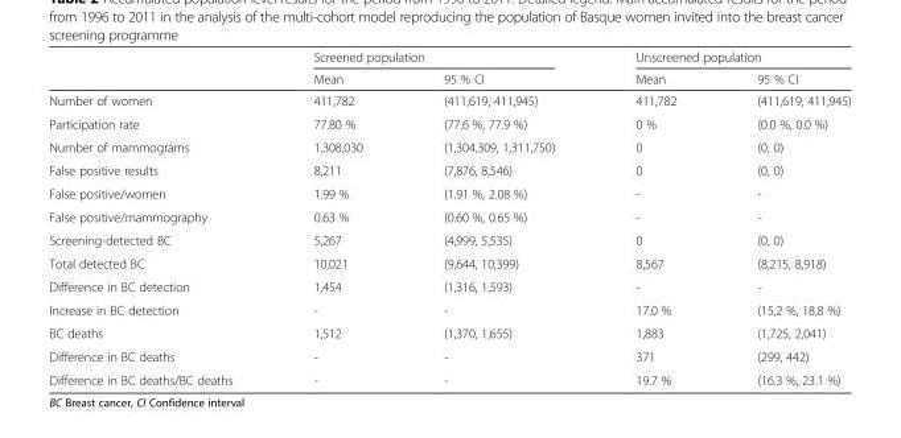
<table><thead><tr><td rowspan="2"></td><td colspan="2">Screened population</td><td colspan="2">Unscreened population</td></tr><tr><td>Mean</td><td>95 % CI</td><td>Mean</td><td>95 % CI</td></tr></thead><tbody><tr><td>Number of women</td><td>411,782</td><td>(411,619, 411,945)</td><td>411,782</td><td>(411,619, 411,945)</td></tr><tr><td>Participation rate</td><td>77.80 %</td><td>(77.6 %, 77.9 %)</td><td>0 %</td><td>(0.0 %, 0.0 %)</td></tr><tr><td>Number of mammograms</td><td>1,308,030</td><td>(1,304,309, 1,311,750)</td><td>0</td><td>(0, 0)</td></tr><tr><td>False positive results</td><td>8,211</td><td>(7,876, 8,546)</td><td>0</td><td>(0, 0)</td></tr><tr><td>False positive/women</td><td>1.99 %</td><td>(1.91 %, 2.08 %)</td><td>-</td><td>-</td></tr><tr><td>False positive/mammography</td><td>0.63 %</td><td>(0.60 %, 0.65 %)</td><td>-</td><td>-</td></tr><tr><td>Screening-detected BC</td><td>5,267</td><td>(4,999, 5,535)</td><td>0</td><td>(0, 0)</td></tr><tr><td>Total detected BC</td><td>10,021</td><td>(9,644, 10,399)</td><td>8,567</td><td>(8,215, 8,918)</td></tr><tr><td>Difference in BC detection</td><td>1,454</td><td>(1,316, 1,593)</td><td>-</td><td>-</td></tr><tr><td>Increase in BC detection</td><td>-</td><td>-</td><td>17.0 %</td><td>(15,2 %, 18,8 %)</td></tr><tr><td>BC deaths</td><td>1,512</td><td>(1,370, 1,655)</td><td>1,883</td><td>(1,725, 2,041)</td></tr><tr><td>Difference in BC deaths</td><td>-</td><td>-</td><td>371</td><td>(299, 442)</td></tr><tr><td>Difference in BC deaths/BC deaths</td><td>-</td><td>-</td><td>19.7 %</td><td>(16.3 %, 23.1 %)</td></tr></tbody></table>